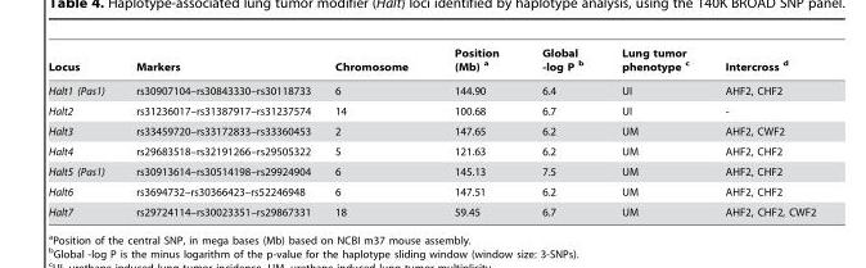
<table><thead><tr><td>Locus</td><td>Markers</td><td>Chromosome</td><td>Position (Mb) a</td><td>Global -log P b</td><td>Lung tumor phenotype c</td><td>Intercross d</td></tr></thead><tbody><tr><td>Halt1 (Pas1)</td><td>rs30907104–rs30843330–rs30118733</td><td>6</td><td>144.90</td><td>6.4</td><td>UI</td><td>AHF2, CHF2</td></tr><tr><td>Halt2</td><td>rs31236017–rs31387917–rs31237574</td><td>14</td><td>100.68</td><td>6.7</td><td>UI</td><td>-</td></tr><tr><td>Halt3</td><td>rs33459720–rs33172833–rs33360453</td><td>2</td><td>147.65</td><td>6.2</td><td>UM</td><td>AHF2, CWF2</td></tr><tr><td>Halt4</td><td>rs29683518–rs32191266–rs29505322</td><td>5</td><td>121.63</td><td>6.2</td><td>UM</td><td>AHF2, CHF2</td></tr><tr><td>Halt5 (Pas1)</td><td>rs30913614–rs30514198–rs29924904</td><td>6</td><td>145.13</td><td>7.5</td><td>UM</td><td>AHF2, CHF2</td></tr><tr><td>Halt6</td><td>rs3694732–rs30366423–rs52246948</td><td>6</td><td>147.51</td><td>6.2</td><td>UM</td><td>AHF2, CHF2</td></tr><tr><td>Halt7</td><td>rs29724114–rs30023351–rs29867331</td><td>18</td><td>59.45</td><td>6.7</td><td>UM</td><td>AHF2, CHF2, CWF2</td></tr></tbody></table>